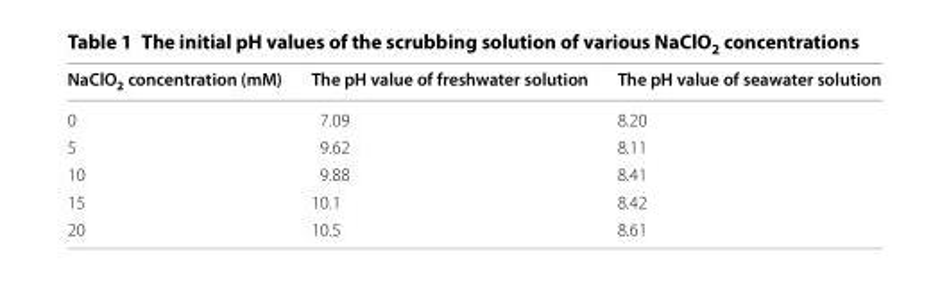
<table><thead><tr><td>NaClO<sub>2</sub> concentration (mM)</td><td>The pH value of freshwater solution</td><td>The pH value of seawater solution</td></tr></thead><tbody><tr><td>0</td><td>7.09</td><td>8.20</td></tr><tr><td>5</td><td>9.62</td><td>8.11</td></tr><tr><td>10</td><td>9.88</td><td>8.41</td></tr><tr><td>15</td><td>10.1</td><td>8.42</td></tr><tr><td>20</td><td>10.5</td><td>8.61</td></tr></tbody></table>